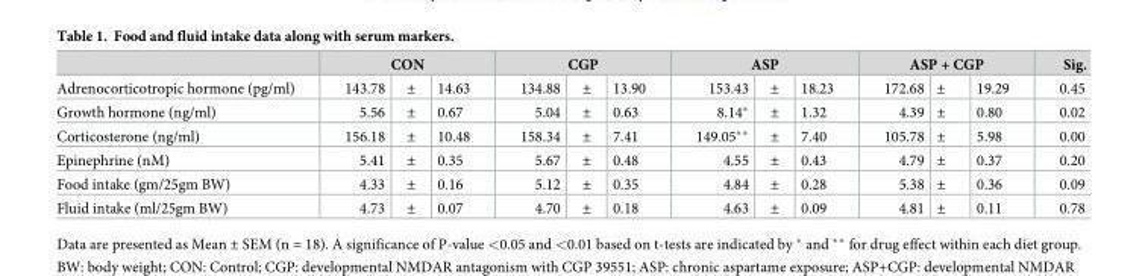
<table><thead><tr><td rowspan="2">Adrenocorticotropic hormone (pg/ml)</td><td colspan="3">CON</td><td colspan="3">CGP</td><td colspan="3">ASP</td><td colspan="3">ASP + CGP</td><td rowspan="2">Sig. 0.45</td></tr><tr><td>143.78</td><td>±</td><td>14.63</td><td>134.88</td><td>±</td><td>13.90</td><td>153.43</td><td>±</td><td>18.23</td><td>172.68</td><td>±</td><td>19.29</td></tr></thead><tbody><tr><td>Growth hormone (ng/ml)</td><td>5.56</td><td>±</td><td>0.67</td><td>5.04</td><td>±</td><td>0.63</td><td>8.14*</td><td>±</td><td>1.32</td><td>4.39</td><td>±</td><td>0.80</td><td>0.02</td></tr><tr><td>Corticosterone (ng/ml)</td><td>156.18</td><td>±</td><td>10.48</td><td>158.34</td><td>±</td><td>7.41</td><td>149.05**</td><td>±</td><td>7.40</td><td>105.78</td><td>±</td><td>5.98</td><td>0.00</td></tr><tr><td>Epinephrine (nM)</td><td>5.41</td><td>±</td><td>0.35</td><td>5.67</td><td>±</td><td>0.48</td><td>4.55</td><td>±</td><td>0.43</td><td>4.79</td><td>±</td><td>0.37</td><td>0.20</td></tr><tr><td>Food intake (gm/25gm BW)</td><td>4.33</td><td>±</td><td>0.16</td><td>5.12</td><td>±</td><td>0.35</td><td>4.84</td><td>±</td><td>0.28</td><td>5.38</td><td>±</td><td>0.36</td><td>0.09</td></tr><tr><td>Fluid intake (ml/25gm BW)</td><td>4.73</td><td>±</td><td>0.07</td><td>4.70</td><td>±</td><td>0.18</td><td>4.63</td><td>±</td><td>0.09</td><td>4.81</td><td>±</td><td>0.11</td><td>0.78</td></tr></tbody></table>